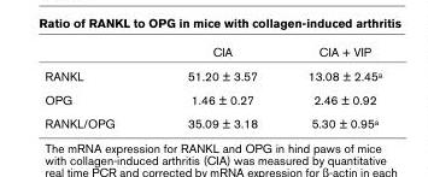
<table><thead><tr><td></td><td>CIA</td><td>CIA + VIP</td></tr></thead><tbody><tr><td>RANKL</td><td>51.20 ± 3.57</td><td>13.08 ± 2.45a</td></tr><tr><td>OPG</td><td>1.46 ± 0.27</td><td>2.46 ± 0.92</td></tr><tr><td>RANKL/OPG</td><td>35.09 ± 3.18</td><td>5.30 ± 0.95a</td></tr></tbody></table>